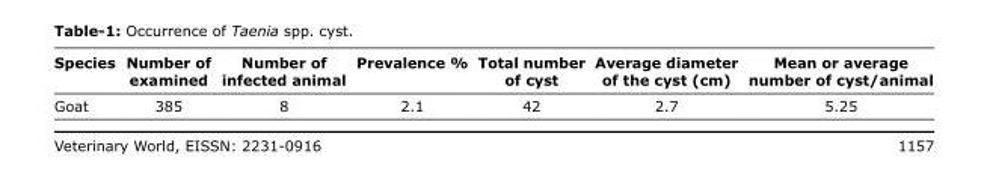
<table><thead><tr><td>Species</td><td>Number of examined</td><td>Number of infected animal</td><td>Prevalence %</td><td>Total number of cyst</td><td>Average diameter of the cyst (cm)</td><td>Mean or average number of cyst/animal</td></tr></thead><tbody><tr><td>Goat</td><td>385</td><td>8</td><td>2.1</td><td>42</td><td>2.7</td><td>5.25</td></tr></tbody></table>